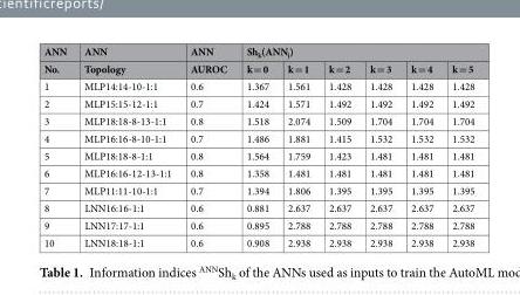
<table><thead><tr><td rowspan="2">ANN No.</td><td rowspan="2">ANN Topology</td><td rowspan="2">ANN AUROC</td><td colspan="6">Sh<sub>k</sub>(ANN<sub>j</sub>)</td></tr><tr><td>k = 0</td><td>k = 1</td><td>k = 2</td><td>k = 3</td><td>k = 4</td><td>k = 5</td></tr></thead><tbody><tr><td>1</td><td>MLP14:14-10-1:1</td><td>0.6</td><td>1.367</td><td>1.561</td><td>1.428</td><td>1.428</td><td>1.428</td><td>1.428</td></tr><tr><td>2</td><td>MLP15:15-12-1:1</td><td>0.7</td><td>1.424</td><td>1.571</td><td>1.492</td><td>1.492</td><td>1.492</td><td>1.492</td></tr><tr><td>3</td><td>MLP18:18-8-13-1:1</td><td>0.8</td><td>1.518</td><td>2.074</td><td>1.509</td><td>1.704</td><td>1.704</td><td>1.704</td></tr><tr><td>4</td><td>MLP16:16-8-10-1:1</td><td>0.7</td><td>1.486</td><td>1.881</td><td>1.415</td><td>1.532</td><td>1.532</td><td>1.532</td></tr><tr><td>5</td><td>MLP18:18-8-1:1</td><td>0.8</td><td>1.564</td><td>1.759</td><td>1.423</td><td>1.481</td><td>1.481</td><td>1.481</td></tr><tr><td>6</td><td>MLP16:16-12-13-1:1</td><td>0.8</td><td>1.358</td><td>1.481</td><td>1.481</td><td>1.481</td><td>1.481</td><td>1.481</td></tr><tr><td>7</td><td>MLP11:11-10-1:1</td><td>0.7</td><td>1.394</td><td>1.806</td><td>1.395</td><td>1.395</td><td>1.395</td><td>1.395</td></tr><tr><td>8</td><td>LNN16:16-1:1</td><td>0.6</td><td>0.881</td><td>2.637</td><td>2.637</td><td>2.637</td><td>2.637</td><td>2.637</td></tr><tr><td>9</td><td>LNN17:17-1:1</td><td>0.6</td><td>0.895</td><td>2.788</td><td>2.788</td><td>2.788</td><td>2.788</td><td>2.788</td></tr><tr><td>10</td><td>LNN18:18-1:1</td><td>0.6</td><td>0.908</td><td>2.938</td><td>2.938</td><td>2.938</td><td>2.938</td><td>2.938</td></tr></tbody></table>